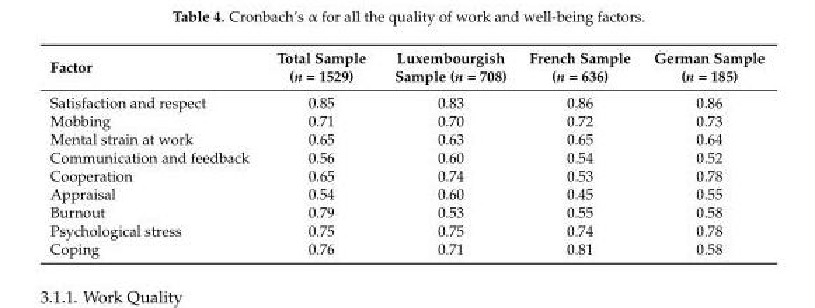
<table><thead><tr><td>Factor</td><td>Total Sample (n = 1529)</td><td>Luxembourgish Sample (n = 708)</td><td>French Sample (n = 636)</td><td>German Sample (n = 185)</td></tr></thead><tbody><tr><td>Satisfaction and respect</td><td>0.85</td><td>0.83</td><td>0.86</td><td>0.86</td></tr><tr><td>Mobbing</td><td>0.71</td><td>0.70</td><td>0.72</td><td>0.73</td></tr><tr><td>Mental strain at work</td><td>0.65</td><td>0.63</td><td>0.65</td><td>0.64</td></tr><tr><td>Communication and feedback</td><td>0.56</td><td>0.60</td><td>0.54</td><td>0.52</td></tr><tr><td>Cooperation</td><td>0.65</td><td>0.74</td><td>0.53</td><td>0.78</td></tr><tr><td>Appraisal</td><td>0.54</td><td>0.60</td><td>0.45</td><td>0.55</td></tr><tr><td>Burnout</td><td>0.79</td><td>0.53</td><td>0.55</td><td>0.58</td></tr><tr><td>Psychological stress</td><td>0.75</td><td>0.75</td><td>0.74</td><td>0.78</td></tr><tr><td>Coping</td><td>0.76</td><td>0.71</td><td>0.81</td><td>0.58</td></tr></tbody></table>